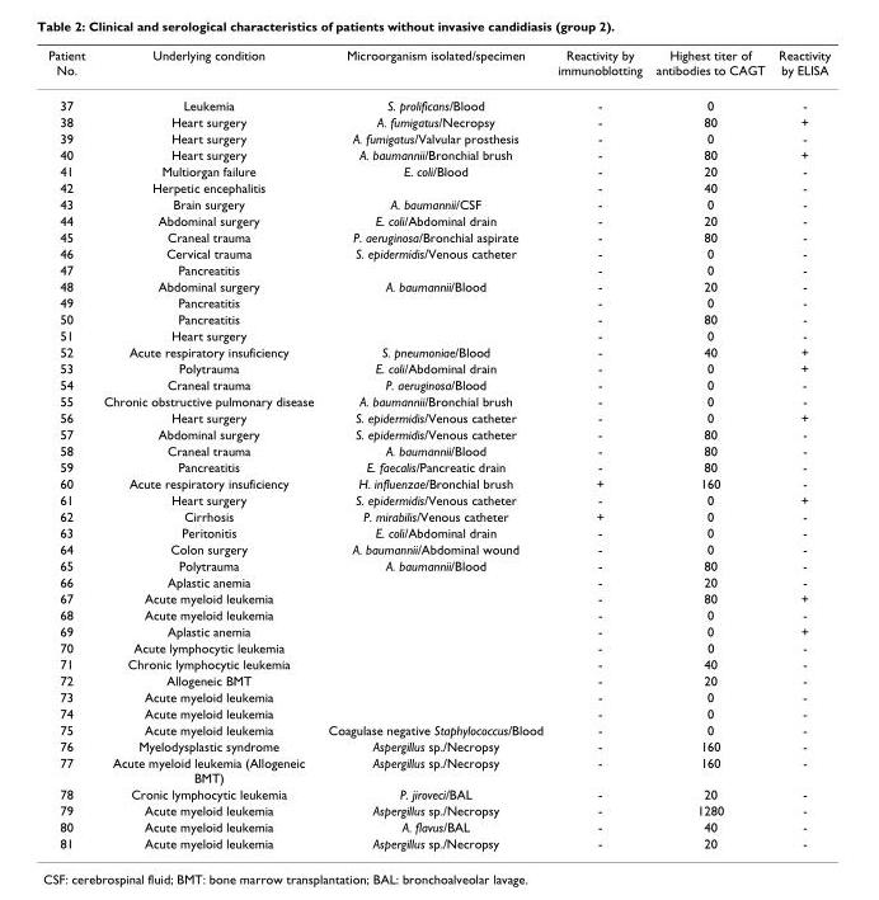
<table><thead><tr><td>Patient No.</td><td>Underlying condition</td><td>Microorganism isolated/specimen</td><td>Reactivity by immunoblotting</td><td>Highest titer of antibodies to CAGT</td><td>Reactivity by ELISA</td></tr></thead><tbody><tr><td>37</td><td>Leukemia</td><td>S. prolificans/Blood</td><td>-</td><td>0</td><td>-</td></tr><tr><td>38</td><td>Heart surgery</td><td>A. fumigatus/Necropsy</td><td>-</td><td>80</td><td>+</td></tr><tr><td>39</td><td>Heart surgery</td><td>A. fumigatus/Valvular prosthesis</td><td>-</td><td>0</td><td>-</td></tr><tr><td>40</td><td>Heart surgery</td><td>A. baumannii/Bronchial brush</td><td>-</td><td>80</td><td>+</td></tr><tr><td>41</td><td>Multiorgan failure</td><td>E. coli/Blood</td><td>-</td><td>20</td><td>-</td></tr><tr><td>42</td><td>Herpetic encephalitis</td><td></td><td>-</td><td>40</td><td>-</td></tr><tr><td>43</td><td>Brain surgery</td><td>A. baumannii/CSF</td><td>-</td><td>0</td><td>-</td></tr><tr><td>44</td><td>Abdominal surgery</td><td>E. coli/Abdominal drain</td><td>-</td><td>20</td><td>-</td></tr><tr><td>45</td><td>Craneal trauma</td><td>P. aeruginosa/Bronchial aspirate</td><td>-</td><td>80</td><td>-</td></tr><tr><td>46</td><td>Cervical trauma</td><td>S. epidermidis/Venous catheter</td><td>-</td><td>0</td><td>-</td></tr><tr><td>47</td><td>Pancreatitis</td><td></td><td>-</td><td>0</td><td>-</td></tr><tr><td>48</td><td>Abdominal surgery</td><td>A. baumannii/Blood</td><td>-</td><td>20</td><td>-</td></tr><tr><td>49</td><td>Pancreatitis</td><td></td><td>-</td><td>0</td><td>-</td></tr><tr><td>50</td><td>Pancreatitis</td><td></td><td>-</td><td>80</td><td>-</td></tr><tr><td>51</td><td>Heart surgery</td><td></td><td>-</td><td>0</td><td>-</td></tr><tr><td>52</td><td>Acute respiratory insuficiency</td><td>S. pneumoniae/Blood</td><td>-</td><td>40</td><td>+</td></tr><tr><td>53</td><td>Polytrauma</td><td>E. coli/Abdominal drain</td><td>-</td><td>0</td><td>+</td></tr><tr><td>54</td><td>Craneal trauma</td><td>P. aeruginosa/Blood</td><td>-</td><td>0</td><td>-</td></tr><tr><td>55</td><td>Chronic obstructive pulmonary disease</td><td>A. baumannii/Bronchial brush</td><td>-</td><td>0</td><td>-</td></tr><tr><td>56</td><td>Heart surgery</td><td>S. epidermidis/Venous catheter</td><td>-</td><td>0</td><td>+</td></tr><tr><td>57</td><td>Abdominal surgery</td><td>S. epidermidis/Venous catheter</td><td>-</td><td>80</td><td>-</td></tr><tr><td>58</td><td>Craneal trauma</td><td>A. baumannii/Blood</td><td>-</td><td>80</td><td>-</td></tr><tr><td>59</td><td>Pancreatitis</td><td>E. faecalis/Pancreatic drain</td><td>-</td><td>80</td><td>-</td></tr><tr><td>60</td><td>Acute respiratory insuficiency</td><td>H. influenzae/Bronchial brush</td><td>+</td><td>160</td><td>-</td></tr><tr><td>61</td><td>Heart surgery</td><td>S. epidermidis/Venous catheter</td><td>-</td><td>0</td><td>+</td></tr><tr><td>62</td><td>Cirrhosis</td><td>P. mirabilis/Venous catheter</td><td>+</td><td>0</td><td>-</td></tr><tr><td>63</td><td>Peritonitis</td><td>E. coli/Abdominal drain</td><td>-</td><td>0</td><td>-</td></tr><tr><td>64</td><td>Colon surgery</td><td>A. baumannii/Abdominal wound</td><td>-</td><td>0</td><td>-</td></tr><tr><td>65</td><td>Polytrauma</td><td>A. baumannii/Blood</td><td>-</td><td>80</td><td>-</td></tr><tr><td>66</td><td>Aplastic anemia</td><td></td><td>-</td><td>20</td><td>-</td></tr><tr><td>67</td><td>Acute myeloid leukemia</td><td></td><td>-</td><td>80</td><td>+</td></tr><tr><td>68</td><td>Acute myeloid leukemia</td><td></td><td>-</td><td>0</td><td>-</td></tr><tr><td>69</td><td>Aplastic anemia</td><td></td><td>-</td><td>0</td><td>+</td></tr><tr><td>70</td><td>Acute lymphocytic leukemia</td><td></td><td>-</td><td>0</td><td>-</td></tr><tr><td>71</td><td>Chronic lymphocytic leukemia</td><td></td><td>-</td><td>40</td><td>-</td></tr><tr><td>72</td><td>Allogeneic BMT</td><td></td><td>-</td><td>20</td><td>-</td></tr><tr><td>73</td><td>Acute myeloid leukemia</td><td></td><td>-</td><td>0</td><td>-</td></tr><tr><td>74</td><td>Acute myeloid leukemia</td><td></td><td>-</td><td>0</td><td>-</td></tr><tr><td>75</td><td>Acute myeloid leukemia</td><td>Coagulase negative Staphylococcus/Blood</td><td>-</td><td>0</td><td>-</td></tr><tr><td>76</td><td>Myelodysplastic syndrome</td><td>Aspergillus sp./Necropsy</td><td>-</td><td>160</td><td>-</td></tr><tr><td>77</td><td>Acute myeloid leukemia (Allogeneic BMT)</td><td>Aspergillus sp./Necropsy</td><td>-</td><td>160</td><td>-</td></tr><tr><td>78</td><td>Cronic lymphocytic leukemia</td><td>P. jiroveci/BAL</td><td>-</td><td>20</td><td>-</td></tr><tr><td>79</td><td>Acute myeloid leukemia</td><td>Aspergillus sp./Necropsy</td><td>-</td><td>1280</td><td>-</td></tr><tr><td>80</td><td>Acute myeloid leukemia</td><td>A. flavus/BAL</td><td>-</td><td>40</td><td>-</td></tr><tr><td>81</td><td>Acute myeloid leukemia</td><td>Aspergillus sp./Necropsy</td><td>-</td><td>20</td><td>-</td></tr></tbody></table>